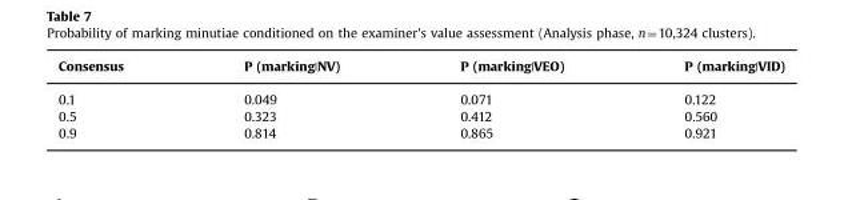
<table><thead><tr><td>Consensus</td><td>P (marking|NV)</td><td>P (marking|VEO)</td><td>P (marking|VID)</td></tr></thead><tbody><tr><td>0.1</td><td>0.049</td><td>0.071</td><td>0.122</td></tr><tr><td>0.5</td><td>0.323</td><td>0.412</td><td>0.560</td></tr><tr><td>0.9</td><td>0.814</td><td>0.865</td><td>0.921</td></tr></tbody></table>